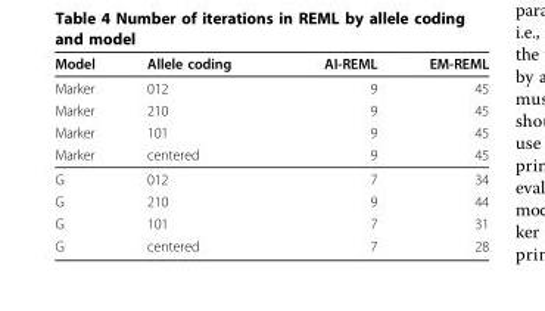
<table><thead><tr><td>Model</td><td>Allele coding</td><td>AI-REML</td><td>EM-REML</td></tr></thead><tbody><tr><td>Marker</td><td>012</td><td>9</td><td>45</td></tr><tr><td>Marker</td><td>210</td><td>9</td><td>45</td></tr><tr><td>Marker</td><td>101</td><td>9</td><td>45</td></tr><tr><td>Marker</td><td>centered</td><td>9</td><td>45</td></tr><tr><td>G</td><td>012</td><td>7</td><td>34</td></tr><tr><td>G</td><td>210</td><td>9</td><td>44</td></tr><tr><td>G</td><td>101</td><td>7</td><td>31</td></tr><tr><td>G</td><td>centered</td><td>7</td><td>28</td></tr></tbody></table>